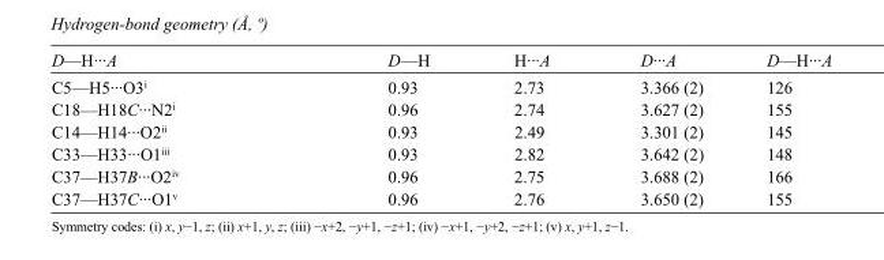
<table><tbody><tr><td>D—H···A</td><td>D—H</td><td>H···A</td><td>D···A</td><td>D—H···A</td></tr><tr><td>C5—H5···O3<sup>i</sup></td><td>0.93</td><td>2.73</td><td>3.366 (2)</td><td>126</td></tr><tr><td>C18—H18C···N2<sup>i</sup></td><td>0.96</td><td>2.74</td><td>3.627 (2)</td><td>155</td></tr><tr><td>C14—H14···O2<sup>ii</sup></td><td>0.93</td><td>2.49</td><td>3.301 (2)</td><td>145</td></tr><tr><td>C33—H33···O1<sup>iii</sup></td><td>0.93</td><td>2.82</td><td>3.642 (2)</td><td>148</td></tr><tr><td>C37—H37B···O2<sup>iv</sup></td><td>0.96</td><td>2.75</td><td>3.688 (2)</td><td>166</td></tr><tr><td>C37—H37C···O1<sup>v</sup></td><td>0.96</td><td>2.76</td><td>3.650 (2)</td><td>155</td></tr></tbody></table>